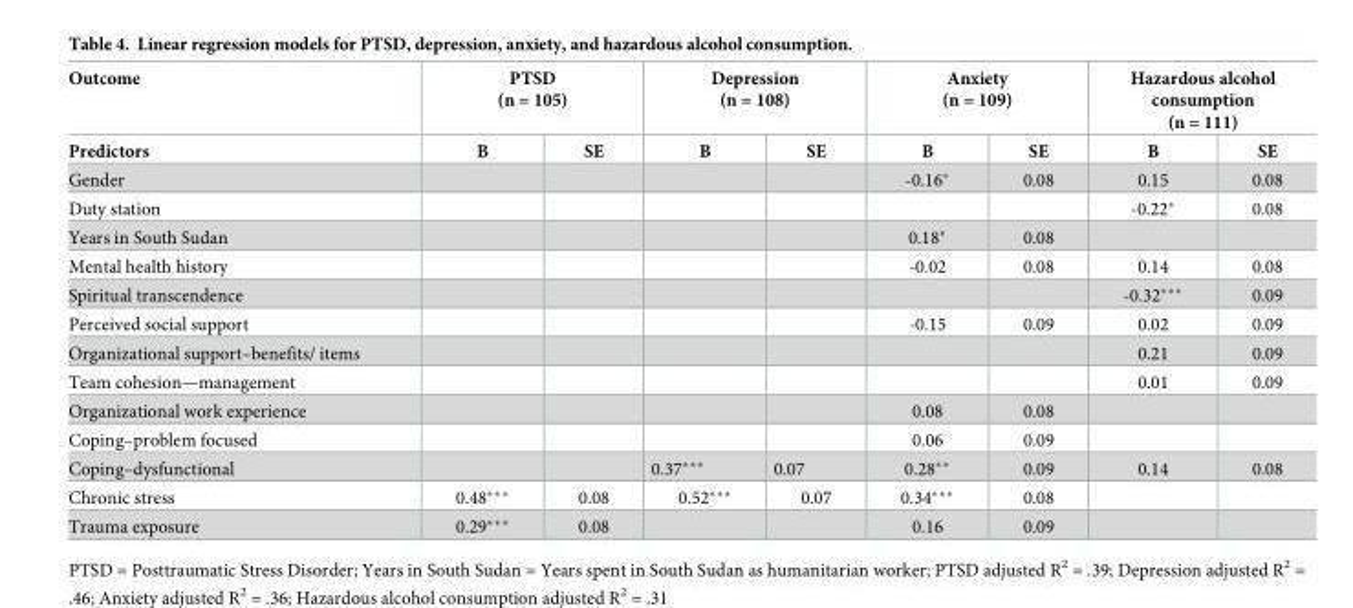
<table><thead><tr><td rowspan="2">Outcome Predictors</td><td colspan="2">PTSD (n = 105)</td><td colspan="2">Depression (n = 108)</td><td colspan="2">Anxiety (n = 109)</td><td colspan="2">Hazardous alcohol consumption (n = 111)</td></tr><tr><td>B</td><td>SE</td><td>B</td><td>SE</td><td>B</td><td>SE</td><td>B</td><td>SE</td></tr></thead><tbody><tr><td>Gender</td><td></td><td></td><td></td><td></td><td>-0.16*</td><td>0.08</td><td>0.15</td><td>0.08</td></tr><tr><td>Duty station</td><td></td><td></td><td></td><td></td><td></td><td></td><td>-0.22*</td><td>0.08</td></tr><tr><td>Years in South Sudan</td><td></td><td></td><td></td><td></td><td>0.18*</td><td>0.08</td><td></td><td></td></tr><tr><td>Mental health history</td><td></td><td></td><td></td><td></td><td>-0.02</td><td>0.08</td><td>0.14</td><td>0.08</td></tr><tr><td>Spiritual transcendence</td><td></td><td></td><td></td><td></td><td></td><td></td><td>-0.32***</td><td>0.09</td></tr><tr><td>Perceived social support</td><td></td><td></td><td></td><td></td><td>-0.15</td><td>0.09</td><td>0.02</td><td>0.09</td></tr><tr><td>Organizational support–benefits/ items</td><td></td><td></td><td></td><td></td><td></td><td></td><td>0.21</td><td>0.09</td></tr><tr><td>Team cohesion—management</td><td></td><td></td><td></td><td></td><td></td><td></td><td>0.01</td><td>0.09</td></tr><tr><td>Organizational work experience</td><td></td><td></td><td></td><td></td><td>0.08</td><td>0.08</td><td></td><td></td></tr><tr><td>Coping–problem focused</td><td></td><td></td><td></td><td></td><td>0.06</td><td>0.09</td><td></td><td></td></tr><tr><td>Coping–dysfunctional</td><td></td><td></td><td>0.37***</td><td>0.07</td><td>0.28**</td><td>0.09</td><td>0.14</td><td>0.08</td></tr><tr><td>Chronic stress</td><td>0.48***</td><td>0.08</td><td>0.52***</td><td>0.07</td><td>0.34***</td><td>0.08</td><td></td><td></td></tr><tr><td>Trauma exposure</td><td>0.29***</td><td>0.08</td><td></td><td></td><td>0.16</td><td>0.09</td><td></td><td></td></tr></tbody></table>